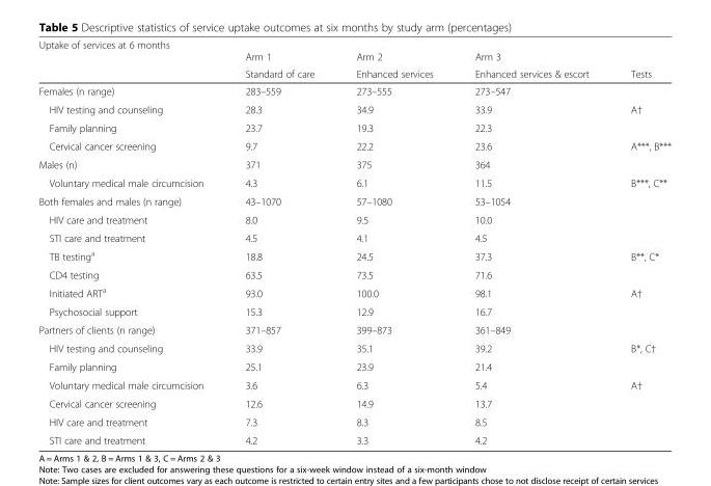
<table><thead><tr><td colspan="5">Uptake of services at 6 months</td></tr><tr><td rowspan="2"></td><td rowspan="2">Arm 1 Standard of care</td><td rowspan="2">Arm 2 Enhanced services</td><td rowspan="2">Arm 3 Enhanced services &amp; escort</td><td rowspan="2">Tests</td></tr><tr></tr></thead><tbody><tr><td>Females (n range)</td><td>283–559</td><td>273–555</td><td>273–547</td><td></td></tr><tr><td>HIV testing and counseling</td><td>28.3</td><td>34.9</td><td>33.9</td><td>A†</td></tr><tr><td>Family planning</td><td>23.7</td><td>19.3</td><td>22.3</td><td></td></tr><tr><td>Cervical cancer screening</td><td>9.7</td><td>22.2</td><td>23.6</td><td>A***, B***</td></tr><tr><td>Males (n)</td><td>371</td><td>375</td><td>364</td><td></td></tr><tr><td>Voluntary medical male circumcision</td><td>4.3</td><td>6.1</td><td>11.5</td><td>B***, C**</td></tr><tr><td>Both females and males (n range)</td><td>43–1070</td><td>57–1080</td><td>53–1054</td><td></td></tr><tr><td>HIV care and treatment</td><td>8.0</td><td>9.5</td><td>10.0</td><td></td></tr><tr><td>STI care and treatment</td><td>4.5</td><td>4.1</td><td>4.5</td><td></td></tr><tr><td>TB testing<sup>a</sup></td><td>18.8</td><td>24.5</td><td>37.3</td><td>B**, C*</td></tr><tr><td>CD4 testing</td><td>63.5</td><td>73.5</td><td>71.6</td><td></td></tr><tr><td>Initiated ART<sup>a</sup></td><td>93.0</td><td>100.0</td><td>98.1</td><td>A†</td></tr><tr><td>Psychosocial support</td><td>15.3</td><td>12.9</td><td>16.7</td><td></td></tr><tr><td>Partners of clients (n range)</td><td>371–857</td><td>399–873</td><td>361–849</td><td></td></tr><tr><td>HIV testing and counseling</td><td>33.9</td><td>35.1</td><td>39.2</td><td>B*, C†</td></tr><tr><td>Family planning</td><td>25.1</td><td>23.9</td><td>21.4</td><td></td></tr><tr><td>Voluntary medical male circumcision</td><td>3.6</td><td>6.3</td><td>5.4</td><td>A†</td></tr><tr><td>Cervical cancer screening</td><td>12.6</td><td>14.9</td><td>13.7</td><td></td></tr><tr><td>HIV care and treatment</td><td>7.3</td><td>8.3</td><td>8.5</td><td></td></tr><tr><td>STI care and treatment</td><td>4.2</td><td>3.3</td><td>4.2</td><td></td></tr></tbody></table>